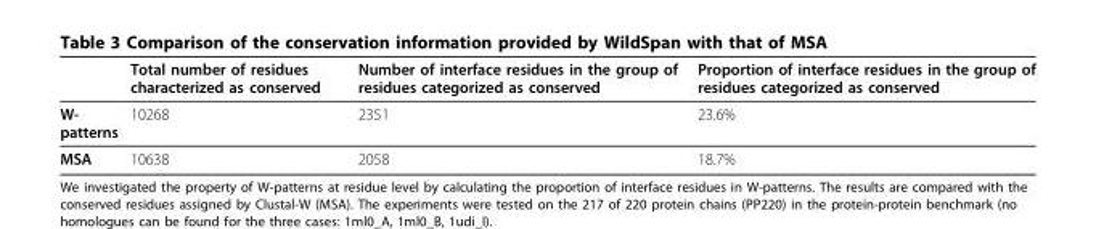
<table><thead><tr><td></td><td>Total number of residues characterized as conserved</td><td>Number of interface residues in the group of residues categorized as conserved</td><td>Proportion of interface residues in the group of residues categorized as conserved</td></tr></thead><tbody><tr><td>W- patterns</td><td>10268</td><td>2351</td><td>23.6%</td></tr><tr><td>MSA</td><td>10638</td><td>2058</td><td>18.7%</td></tr></tbody></table>